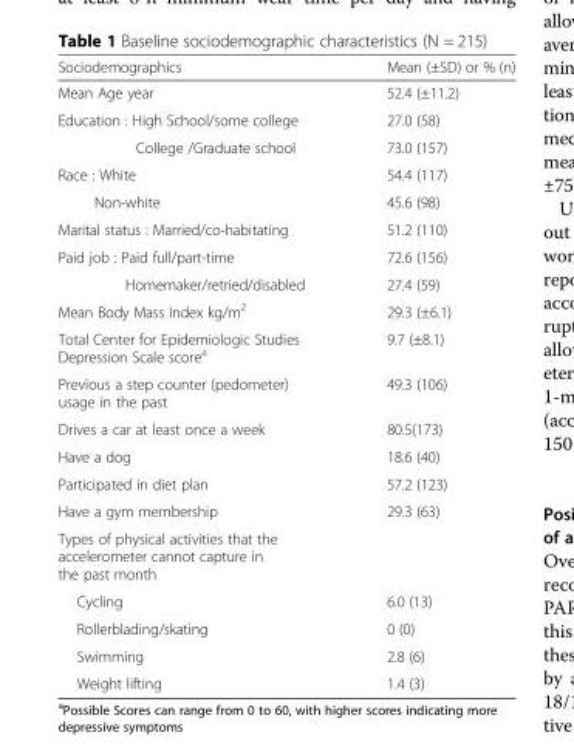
<table><thead><tr><td>Sociodemographics</td><td>Mean (±SD) or % (n)</td></tr></thead><tbody><tr><td>Mean Age year</td><td>52.4 (±11.2)</td></tr><tr><td>Education : High School/some college</td><td>27.0 (58)</td></tr><tr><td>College /Graduate school</td><td>73.0 (157)</td></tr><tr><td>Race : White</td><td>54.4 (117)</td></tr><tr><td>Non-white</td><td>45.6 (98)</td></tr><tr><td>Marital status : Married/co-habitating</td><td>51.2 (110)</td></tr><tr><td>Paid job : Paid full/part-time</td><td>72.6 (156)</td></tr><tr><td>Homemaker/retried/disabled</td><td>27.4 (59)</td></tr><tr><td>Mean Body Mass Index kg/m<sup>2</sup></td><td>29.3 (±6.1)</td></tr><tr><td>Total Center for Epidemiologic Studies Depression Scale score<sup>a</sup></td><td>9.7 (±8.1)</td></tr><tr><td>Previous a step counter (pedometer) usage in the past</td><td>49.3 (106)</td></tr><tr><td>Drives a car at least once a week</td><td>80.5(173)</td></tr><tr><td>Have a dog</td><td>18.6 (40)</td></tr><tr><td>Participated in diet plan</td><td>57.2 (123)</td></tr><tr><td>Have a gym membership</td><td>29.3 (63)</td></tr><tr><td colspan="2">Types of physical activities that the accelerometer cannot capture in the past month</td></tr><tr><td>Cycling</td><td>6.0 (13)</td></tr><tr><td>Rollerblading/skating</td><td>0 (0)</td></tr><tr><td>Swimming</td><td>2.8 (6)</td></tr><tr><td>Weight lifting</td><td>1.4 (3)</td></tr></tbody></table>